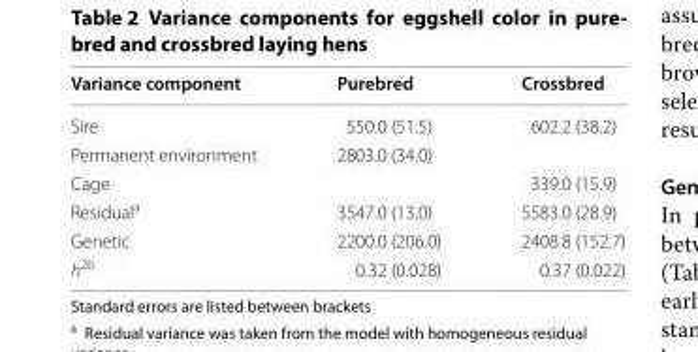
<table><thead><tr><td>Variance component</td><td>Purebred</td><td>Crossbred</td></tr></thead><tbody><tr><td>Sire</td><td>550.0 (51.5)</td><td>602.2 (38.2)</td></tr><tr><td>Permanent environment</td><td>2803.0 (34.0)</td><td></td></tr><tr><td>Cage</td><td></td><td>339.0 (15.9)</td></tr><tr><td>Residual<sup>a</sup></td><td>3547.0 (13.0)</td><td>5583.0 (28.9)</td></tr><tr><td>Genetic</td><td>2200.0 (206.0)</td><td>2408.8 (152.7)</td></tr><tr><td>h<sup>2b</sup></td><td>0.32 (0.028)</td><td>0.37 (0.022)</td></tr></tbody></table>